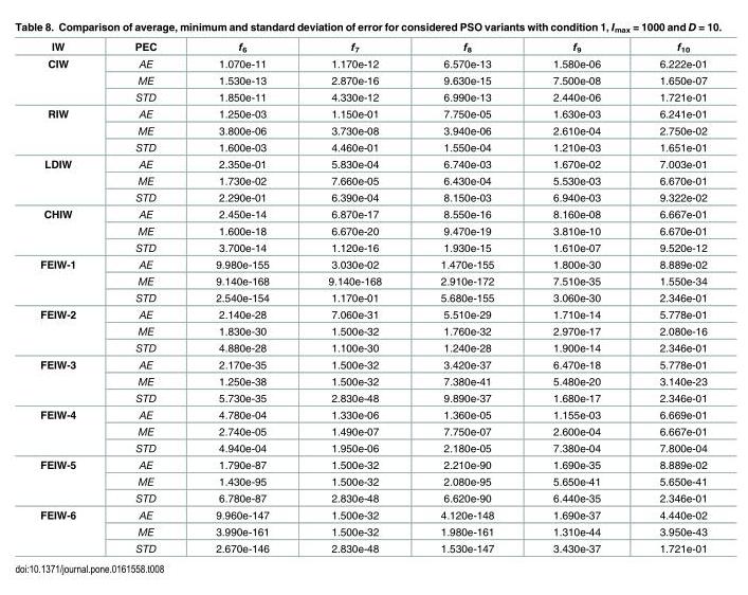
<table><thead><tr><td>IW</td><td>PEC</td><td>f<sub>6</sub></td><td>f<sub>7</sub></td><td>f<sub>8</sub></td><td>f<sub>9</sub></td><td>f<sub>10</sub></td></tr></thead><tbody><tr><td rowspan="3">CIW</td><td>AE</td><td>1.070e-11</td><td>1.170e-12</td><td>6.570e-13</td><td>1.580e-06</td><td>6.222e-01</td></tr><tr><td>ME</td><td>1.530e-13</td><td>2.870e-16</td><td>9.630e-15</td><td>7.500e-08</td><td>1.650e-07</td></tr><tr><td>STD</td><td>1.850e-11</td><td>4.330e-12</td><td>6.990e-13</td><td>2.440e-06</td><td>1.721e-01</td></tr><tr><td rowspan="3">RIW</td><td>AE</td><td>1.250e-03</td><td>1.150e-01</td><td>7.750e-05</td><td>1.630e-03</td><td>6.241e-01</td></tr><tr><td>ME</td><td>3.800e-06</td><td>3.730e-08</td><td>3.940e-06</td><td>2.610e-04</td><td>2.750e-02</td></tr><tr><td>STD</td><td>1.600e-03</td><td>4.460e-01</td><td>1.550e-04</td><td>1.210e-03</td><td>1.651e-01</td></tr><tr><td rowspan="3">LDIW</td><td>AE</td><td>2.350e-01</td><td>5.830e-04</td><td>6.740e-03</td><td>1.670e-02</td><td>7.003e-01</td></tr><tr><td>ME</td><td>1.730e-02</td><td>7.660e-05</td><td>6.430e-04</td><td>5.530e-03</td><td>6.670e-01</td></tr><tr><td>STD</td><td>2.290e-01</td><td>6.390e-04</td><td>8.150e-03</td><td>6.940e-03</td><td>9.322e-02</td></tr><tr><td rowspan="3">CHIW</td><td>AE</td><td>2.450e-14</td><td>6.870e-17</td><td>8.550e-16</td><td>8.160e-08</td><td>6.667e-01</td></tr><tr><td>ME</td><td>1.600e-18</td><td>6.670e-20</td><td>9.470e-19</td><td>3.810e-10</td><td>6.670e-01</td></tr><tr><td>STD</td><td>3.700e-14</td><td>1.120e-16</td><td>1.930e-15</td><td>1.610e-07</td><td>9.520e-12</td></tr><tr><td rowspan="3">FEIW-1</td><td>AE</td><td>9.980e-155</td><td>3.030e-02</td><td>1.470e-155</td><td>1.800e-30</td><td>8.889e-02</td></tr><tr><td>ME</td><td>9.140e-168</td><td>9.140e-168</td><td>2.910e-172</td><td>7.510e-35</td><td>1.550e-34</td></tr><tr><td>STD</td><td>2.540e-154</td><td>1.170e-01</td><td>5.680e-155</td><td>3.060e-30</td><td>2.346e-01</td></tr><tr><td rowspan="3">FEIW-2</td><td>AE</td><td>2.140e-28</td><td>7.060e-31</td><td>5.510e-29</td><td>1.710e-14</td><td>5.778e-01</td></tr><tr><td>ME</td><td>1.830e-30</td><td>1.500e-32</td><td>1.760e-32</td><td>2.970e-17</td><td>2.080e-16</td></tr><tr><td>STD</td><td>4.880e-28</td><td>1.100e-30</td><td>1.240e-28</td><td>1.900e-14</td><td>2.346e-01</td></tr><tr><td rowspan="3">FEIW-3</td><td>AE</td><td>2.170e-35</td><td>1.500e-32</td><td>3.420e-37</td><td>6.470e-18</td><td>5.778e-01</td></tr><tr><td>ME</td><td>1.250e-38</td><td>1.500e-32</td><td>7.380e-41</td><td>5.480e-20</td><td>3.140e-23</td></tr><tr><td>STD</td><td>5.730e-35</td><td>2.830e-48</td><td>9.890e-37</td><td>1.680e-17</td><td>2.346e-01</td></tr><tr><td rowspan="3">FEIW-4</td><td>AE</td><td>4.780e-04</td><td>1.330e-06</td><td>1.360e-05</td><td>1.155e-03</td><td>6.669e-01</td></tr><tr><td>ME</td><td>2.740e-05</td><td>1.490e-07</td><td>7.750e-07</td><td>2.600e-04</td><td>6.667e-01</td></tr><tr><td>STD</td><td>4.940e-04</td><td>1.950e-06</td><td>2.180e-05</td><td>7.380e-04</td><td>7.800e-04</td></tr><tr><td rowspan="3">FEIW-5</td><td>AE</td><td>1.790e-87</td><td>1.500e-32</td><td>2.210e-90</td><td>1.690e-35</td><td>8.889e-02</td></tr><tr><td>ME</td><td>1.430e-95</td><td>1.500e-32</td><td>2.080e-95</td><td>5.650e-41</td><td>5.650e-41</td></tr><tr><td>STD</td><td>6.780e-87</td><td>2.830e-48</td><td>6.620e-90</td><td>6.440e-35</td><td>2.346e-01</td></tr><tr><td rowspan="3">FEIW-6</td><td>AE</td><td>9.960e-147</td><td>1.500e-32</td><td>4.120e-148</td><td>1.690e-37</td><td>4.440e-02</td></tr><tr><td>ME</td><td>3.990e-161</td><td>1.500e-32</td><td>1.980e-161</td><td>1.310e-44</td><td>3.950e-43</td></tr><tr><td>STD</td><td>2.670e-146</td><td>2.830e-48</td><td>1.530e-147</td><td>3.430e-37</td><td>1.721e-01</td></tr></tbody></table>